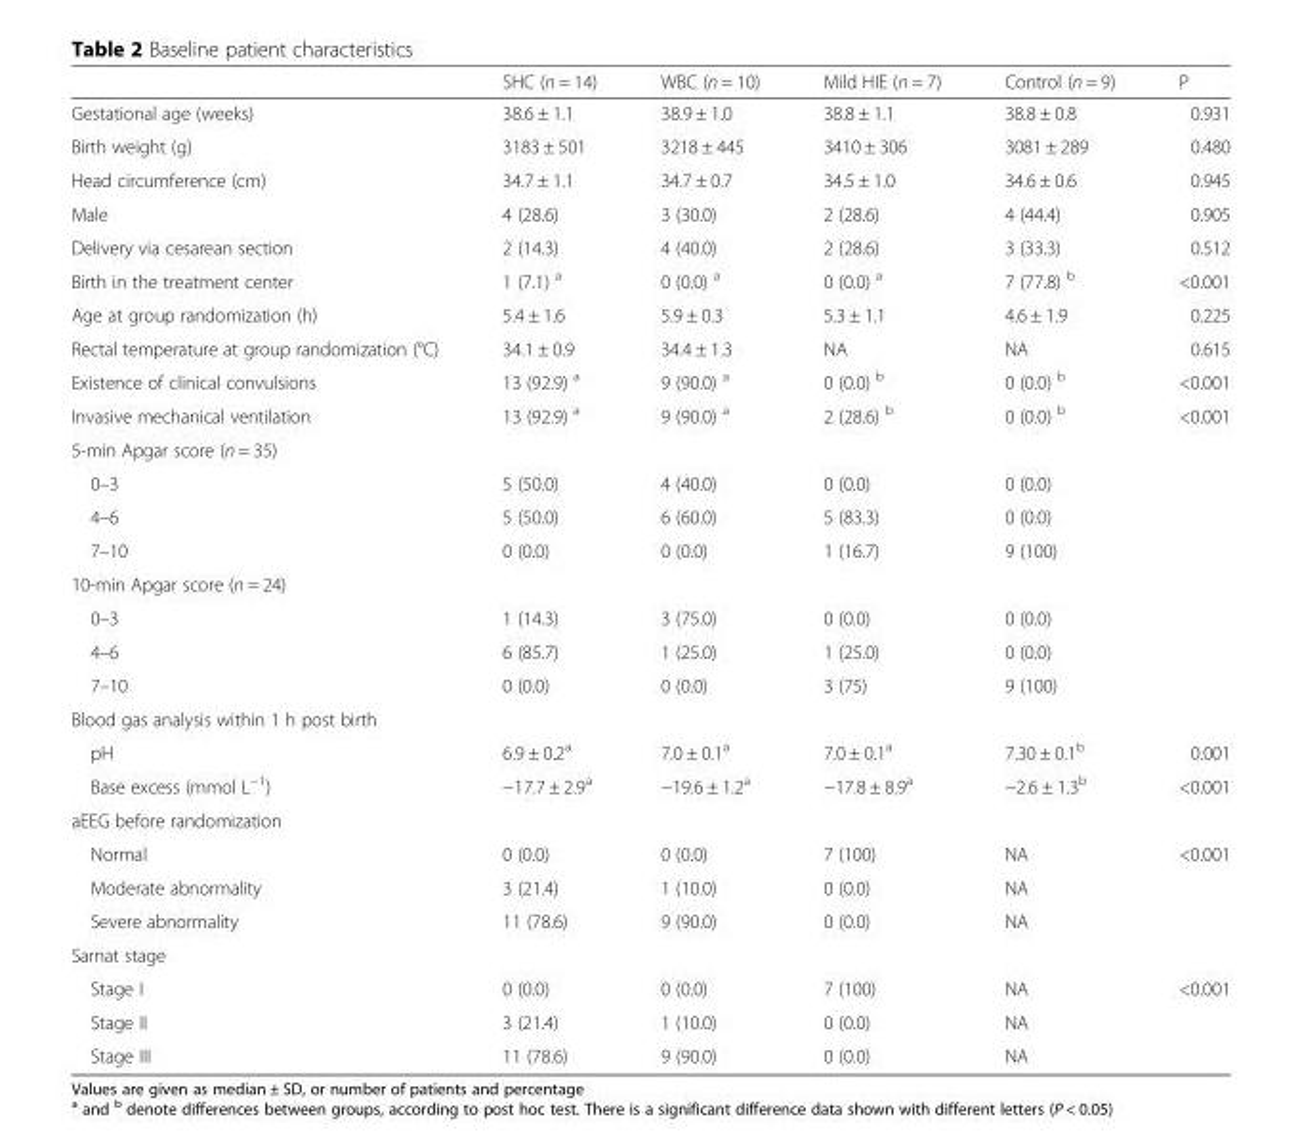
<table><thead><tr><td></td><td>SHC (n = 14)</td><td>WBC (n = 10)</td><td>Mild HIE (n = 7)</td><td>Control (n = 9)</td><td>P</td></tr></thead><tbody><tr><td>Gestational age (weeks)</td><td>38.6 ± 1.1</td><td>38.9 ± 1.0</td><td>38.8 ± 1.1</td><td>38.8 ± 0.8</td><td>0.931</td></tr><tr><td>Birth weight (g)</td><td>3183 ± 501</td><td>3218 ± 445</td><td>3410 ± 306</td><td>3081 ± 289</td><td>0.480</td></tr><tr><td>Head circumference (cm)</td><td>34.7 ± 1.1</td><td>34.7 ± 0.7</td><td>34.5 ± 1.0</td><td>34.6 ± 0.6</td><td>0.945</td></tr><tr><td>Male</td><td>4 (28.6)</td><td>3 (30.0)</td><td>2 (28.6)</td><td>4 (44.4)</td><td>0.905</td></tr><tr><td>Delivery via cesarean section</td><td>2 (14.3)</td><td>4 (40.0)</td><td>2 (28.6)</td><td>3 (33.3)</td><td>0.512</td></tr><tr><td>Birth in the treatment center</td><td>1 (7.1) <sup>a</sup></td><td>0 (0.0) <sup>a</sup></td><td>0 (0.0) <sup>a</sup></td><td>7 (77.8) <sup>b</sup></td><td>&lt;0.001</td></tr><tr><td>Age at group randomization (h)</td><td>5.4 ± 1.6</td><td>5.9 ± 0.3</td><td>5.3 ± 1.1</td><td>4.6 ± 1.9</td><td>0.225</td></tr><tr><td>Rectal temperature at group randomization (°C)</td><td>34.1 ± 0.9</td><td>34.4 ± 1.3</td><td>NA</td><td>NA</td><td>0.615</td></tr><tr><td>Existence of clinical convulsions</td><td>13 (92.9) <sup>a</sup></td><td>9 (90.0) <sup>a</sup></td><td>0 (0.0) <sup>b</sup></td><td>0 (0.0) <sup>b</sup></td><td>&lt;0.001</td></tr><tr><td>Invasive mechanical ventilation</td><td>13 (92.9) <sup>a</sup></td><td>9 (90.0) <sup>a</sup></td><td>2 (28.6) <sup>b</sup></td><td>0 (0.0) <sup>b</sup></td><td>&lt;0.001</td></tr><tr><td colspan="6">5-min Apgar score (n = 35)</td></tr><tr><td>0–3</td><td>5 (50.0)</td><td>4 (40.0)</td><td>0 (0.0)</td><td>0 (0.0)</td><td rowspan="3"></td></tr><tr><td>4–6</td><td>5 (50.0)</td><td>6 (60.0)</td><td>5 (83.3)</td><td>0 (0.0)</td></tr><tr><td>7–10</td><td>0 (0.0)</td><td>0 (0.0)</td><td>1 (16.7)</td><td>9 (100)</td></tr><tr><td colspan="6">10-min Apgar score (n = 24)</td></tr><tr><td>0–3</td><td>1 (14.3)</td><td>3 (75.0)</td><td>0 (0.0)</td><td>0 (0.0)</td><td rowspan="3"></td></tr><tr><td>4–6</td><td>6 (85.7)</td><td>1 (25.0)</td><td>1 (25.0)</td><td>0 (0.0)</td></tr><tr><td>7–10</td><td>0 (0.0)</td><td>0 (0.0)</td><td>3 (75)</td><td>9 (100)</td></tr><tr><td colspan="6">Blood gas analysis within 1 h post birth</td></tr><tr><td>pH</td><td>6.9 ± 0.2<sup>a</sup></td><td>7.0 ± 0.1<sup>a</sup></td><td>7.0 ± 0.1<sup>a</sup></td><td>7.30 ± 0.1<sup>b</sup></td><td>0.001</td></tr><tr><td>Base excess (mmol L<sup>−1</sup>)</td><td>−17.7 ± 2.9<sup>a</sup></td><td>−19.6 ± 1.2<sup>a</sup></td><td>−17.8 ± 8.9<sup>a</sup></td><td>−2.6 ± 1.3<sup>b</sup></td><td>&lt;0.001</td></tr><tr><td colspan="6">aEEG before randomization</td></tr><tr><td>Normal</td><td>0 (0.0)</td><td>0 (0.0)</td><td>7 (100)</td><td>NA</td><td rowspan="3">&lt;0.001</td></tr><tr><td>Moderate abnormality</td><td>3 (21.4)</td><td>1 (10.0)</td><td>0 (0.0)</td><td>NA</td></tr><tr><td>Severe abnormality</td><td>11 (78.6)</td><td>9 (90.0)</td><td>0 (0.0)</td><td>NA</td></tr><tr><td colspan="6">Sarnat stage</td></tr><tr><td>Stage I</td><td>0 (0.0)</td><td>0 (0.0)</td><td>7 (100)</td><td>NA</td><td rowspan="3">&lt;0.001</td></tr><tr><td>Stage II</td><td>3 (21.4)</td><td>1 (10.0)</td><td>0 (0.0)</td><td>NA</td></tr><tr><td>Stage III</td><td>11 (78.6)</td><td>9 (90.0)</td><td>0 (0.0)</td><td>NA</td></tr></tbody></table>